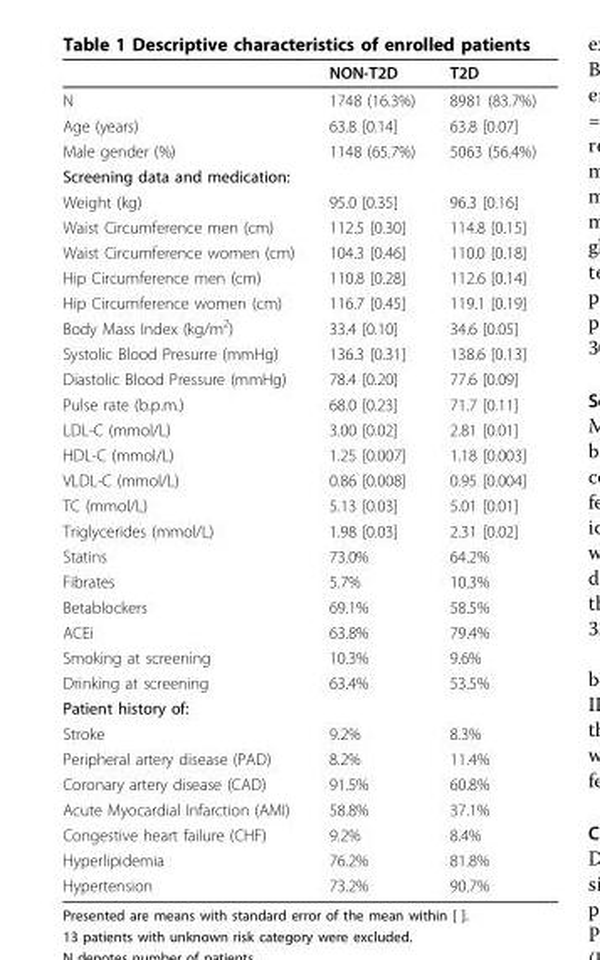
<table><thead><tr><td></td><td>NON-T2D</td><td>T2D</td></tr></thead><tbody><tr><td>N</td><td>1748 (16.3%)</td><td>8981 (83.7%)</td></tr><tr><td>Age (years)</td><td>63.8 [0.14]</td><td>63.8 [0.07]</td></tr><tr><td>Male gender (%)</td><td>1148 (65.7%)</td><td>5063 (56.4%)</td></tr><tr><td colspan="3">Screening data and medication:</td></tr><tr><td>Weight (kg)</td><td>95.0 [0.35]</td><td>96.3 [0.16]</td></tr><tr><td>Waist Circumference men (cm)</td><td>112.5 [0.30]</td><td>114.8 [0.15]</td></tr><tr><td>Waist Circumference women (cm)</td><td>104.3 [0.46]</td><td>110.0 [0.18]</td></tr><tr><td>Hip Circumference men (cm)</td><td>110.8 [0.28]</td><td>112.6 [0.14]</td></tr><tr><td>Hip Circumference women (cm)</td><td>116.7 [0.45]</td><td>119.1 [0.19]</td></tr><tr><td>Body Mass Index (kg/m<sup>2</sup>)</td><td>33.4 [0.10]</td><td>34.6 [0.05]</td></tr><tr><td>Systolic Blood Presurre (mmHg)</td><td>136.3 [0.31]</td><td>138.6 [0.13]</td></tr><tr><td>Diastolic Blood Pressure (mmHg)</td><td>78.4 [0.20]</td><td>77.6 [0.09]</td></tr><tr><td>Pulse rate (b.p.m.)</td><td>68.0 [0.23]</td><td>71.7 [0.11]</td></tr><tr><td>LDL-C (mmol/L)</td><td>3.00 [0.02]</td><td>2.81 [0.01]</td></tr><tr><td>HDL-C (mmol/L)</td><td>1.25 [0.007]</td><td>1.18 [0.003]</td></tr><tr><td>VLDL-C (mmol/L)</td><td>0.86 [0.008]</td><td>0.95 [0.004]</td></tr><tr><td>TC (mmol/L)</td><td>5.13 [0.03]</td><td>5.01 [0.01]</td></tr><tr><td>Triglycerides (mmol/L)</td><td>1.98 [0.03]</td><td>2.31 [0.02]</td></tr><tr><td>Statins</td><td>73.0%</td><td>64.2%</td></tr><tr><td>Fibrates</td><td>5.7%</td><td>10.3%</td></tr><tr><td>Betablockers</td><td>69.1%</td><td>58.5%</td></tr><tr><td>ACEi</td><td>63.8%</td><td>79.4%</td></tr><tr><td>Smoking at screening</td><td>10.3%</td><td>9.6%</td></tr><tr><td>Drinking at screening</td><td>63.4%</td><td>53.5%</td></tr><tr><td colspan="3">Patient history of:</td></tr><tr><td>Stroke</td><td>9.2%</td><td>8.3%</td></tr><tr><td>Peripheral artery disease (PAD)</td><td>8.2%</td><td>11.4%</td></tr><tr><td>Coronary artery disease (CAD)</td><td>91.5%</td><td>60.8%</td></tr><tr><td>Acute Myocardial Infarction (AMI)</td><td>58.8%</td><td>37.1%</td></tr><tr><td>Congestive heart failure (CHF)</td><td>9.2%</td><td>8.4%</td></tr><tr><td>Hyperlipidemia</td><td>76.2%</td><td>81.8%</td></tr><tr><td>Hypertension</td><td>73.2%</td><td>90.7%</td></tr></tbody></table>